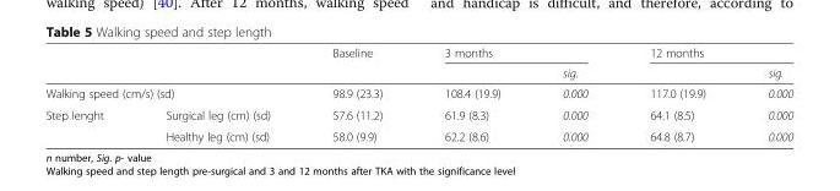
<table><thead><tr><td rowspan="2"></td><td rowspan="2"></td><td rowspan="2">Baseline</td><td colspan="2">3 months</td><td colspan="2">12 months</td></tr><tr><td></td><td>sig.</td><td></td><td>sig.</td></tr></thead><tbody><tr><td colspan="2">Walking speed (cm/s) (sd)</td><td>98.9 (23.3)</td><td>108.4 (19.9)</td><td>0.000</td><td>117.0 (19.9)</td><td>0.000</td></tr><tr><td rowspan="2">Step lenght</td><td>Surgical leg (cm) (sd)</td><td>57.6 (11.2)</td><td>61.9 (8.3)</td><td>0.000</td><td>64.1 (8.5)</td><td>0.000</td></tr><tr><td>Healthy leg (cm) (sd)</td><td>58.0 (9.9)</td><td>62.2 (8.6)</td><td>0.000</td><td>64.8 (8.7)</td><td>0.000</td></tr></tbody></table>